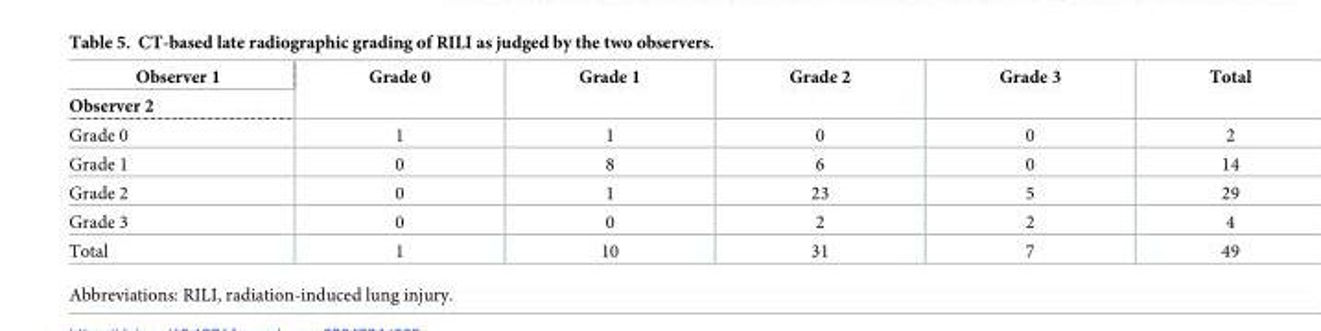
<table><thead><tr><td rowspan="2">Observer 1 Observer 2</td><td rowspan="2">Grade 0</td><td rowspan="2">Grade 1</td><td rowspan="2">Grade 2</td><td rowspan="2">Grade 3</td><td rowspan="2">Total</td></tr><tr></tr></thead><tbody><tr><td>Grade 0</td><td>1</td><td>1</td><td>0</td><td>0</td><td>2</td></tr><tr><td>Grade 1</td><td>0</td><td>8</td><td>6</td><td>0</td><td>14</td></tr><tr><td>Grade 2</td><td>0</td><td>1</td><td>23</td><td>5</td><td>29</td></tr><tr><td>Grade 3</td><td>0</td><td>0</td><td>2</td><td>2</td><td>4</td></tr><tr><td>Total</td><td>1</td><td>10</td><td>31</td><td>7</td><td>49</td></tr></tbody></table>